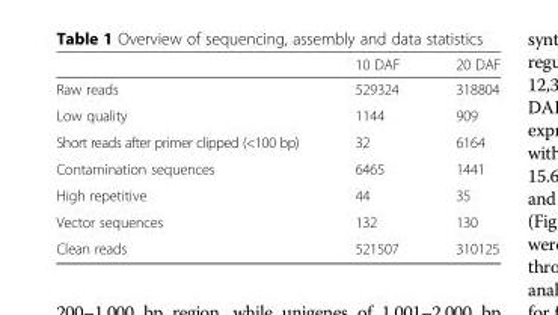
<table><thead><tr><td></td><td>10 DAF</td><td>20 DAF</td></tr></thead><tbody><tr><td>Raw reads</td><td>529324</td><td>318804</td></tr><tr><td>Low quality</td><td>1144</td><td>909</td></tr><tr><td>Short reads after primer clipped (&lt;100 bp)</td><td>32</td><td>6164</td></tr><tr><td>Contamination sequences</td><td>6465</td><td>1441</td></tr><tr><td>High repetitive</td><td>44</td><td>35</td></tr><tr><td>Vector sequences</td><td>132</td><td>130</td></tr><tr><td>Clean reads</td><td>521507</td><td>310125</td></tr></tbody></table>